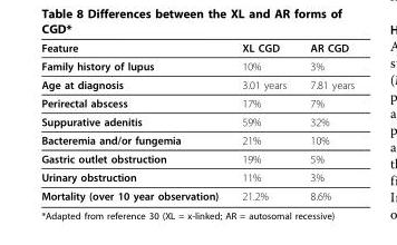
<table><thead><tr><td>Feature</td><td>XL CGD</td><td>AR CGD</td></tr></thead><tbody><tr><td>Family history of lupus</td><td>10%</td><td>3%</td></tr><tr><td>Age at diagnosis</td><td>3.01 years</td><td>7.81 years</td></tr><tr><td>Perirectal abscess</td><td>17%</td><td>7%</td></tr><tr><td>Suppurative adenitis</td><td>59%</td><td>32%</td></tr><tr><td>Bacteremia and/or fungemia</td><td>21%</td><td>10%</td></tr><tr><td>Gastric outlet obstruction</td><td>19%</td><td>5%</td></tr><tr><td>Urinary obstruction</td><td>11%</td><td>3%</td></tr><tr><td>Mortality (over 10 year observation)</td><td>21.2%</td><td>8.6%</td></tr></tbody></table>